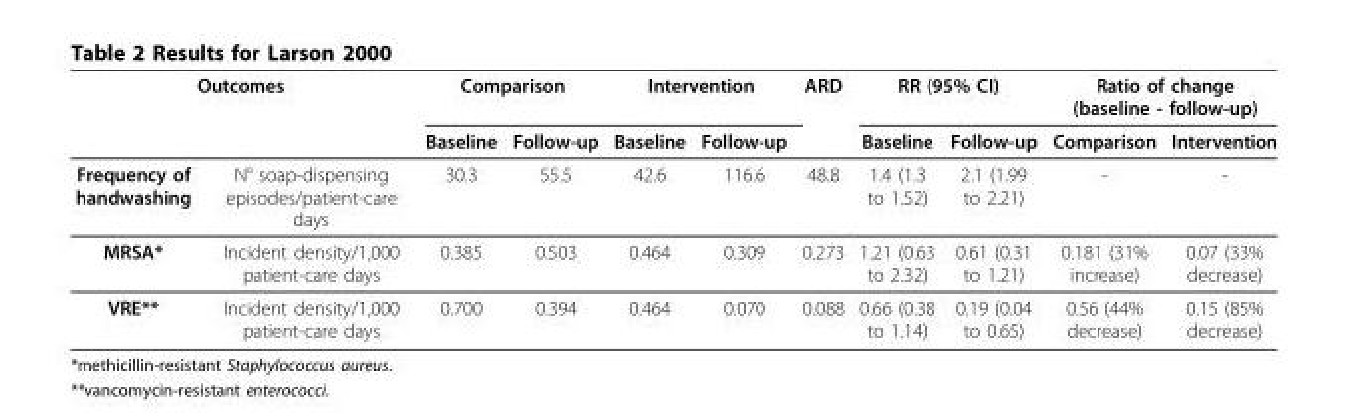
<table><thead><tr><td colspan="2">Outcomes</td><td colspan="2">Comparison</td><td colspan="2">Intervention</td><td rowspan="2">ARD</td><td colspan="2">RR (95% CI)</td><td colspan="2">Ratio of change (baseline - follow-up)</td></tr><tr><td></td><td></td><td>Baseline</td><td>Follow-up</td><td>Baseline</td><td>Follow-up</td><td>Baseline</td><td>Follow-up</td><td>Comparison</td><td>Intervention</td></tr></thead><tbody><tr><td>Frequency of handwashing</td><td>N° soap-dispensing episodes/patient-care days</td><td>30.3</td><td>55.5</td><td>42.6</td><td>116.6</td><td>48.8</td><td>1.4 (1.3 to 1.52)</td><td>2.1 (1.99 to 2.21)</td><td>-</td><td>-</td></tr><tr><td>MRSA*</td><td>Incident density/1,000 patient-care days</td><td>0.385</td><td>0.503</td><td>0.464</td><td>0.309</td><td>0.273</td><td>1.21 (0.63 to 2.32)</td><td>0.61 (0.31 to 1.21)</td><td>0.181 (31% increase)</td><td>0.07 (33% decrease)</td></tr><tr><td>VRE**</td><td>Incident density/1,000 patient-care days</td><td>0.700</td><td>0.394</td><td>0.464</td><td>0.070</td><td>0.088</td><td>0.66 (0.38 to 1.14)</td><td>0.19 (0.04 to 0.65)</td><td>0.56 (44% decrease)</td><td>0.15 (85% decrease)</td></tr></tbody></table>